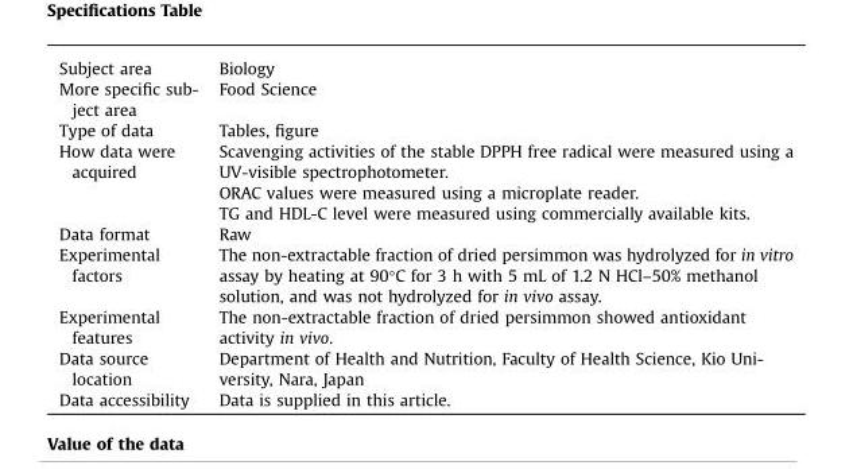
<table><tbody><tr><td>Subject area</td><td>Biology</td></tr><tr><td>More specific sub- ject area</td><td>Food Science</td></tr><tr><td>Type of data</td><td>Tables, figure</td></tr><tr><td rowspan="3">How data were acquired</td><td>Scavenging activities of the stable DPPH free radical were measured using a UV-visible spectrophotometer.</td></tr><tr><td>ORAC values were measured using a microplate reader.</td></tr><tr><td>TG and HDL-C level were measured using commercially available kits.</td></tr><tr><td>Data format</td><td>Raw</td></tr><tr><td>Experimental factors</td><td>The non-extractable fraction of dried persimmon was hydrolyzed for in vitro assay by heating at 90°C for 3 h with 5 mL of 1.2 N HCl–50% methanol solution, and was not hydrolyzed for in vivo assay.</td></tr><tr><td>Experimental features</td><td>The non-extractable fraction of dried persimmon showed antioxidant activity in vivo.</td></tr><tr><td>Data source location</td><td>Department of Health and Nutrition, Faculty of Health Science, Kio Uni- versity, Nara, Japan</td></tr><tr><td>Data accessibility</td><td>Data is supplied in this article.</td></tr></tbody></table>